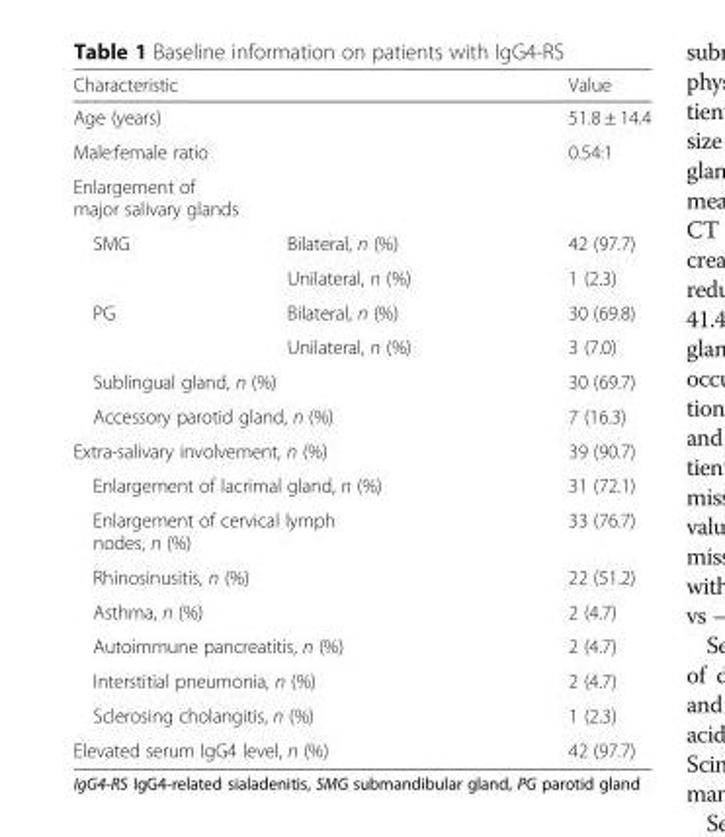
<table><thead><tr><td colspan="2">Characteristic</td><td>Value</td></tr></thead><tbody><tr><td colspan="2">Age (years)</td><td>51.8 ± 14.4</td></tr><tr><td colspan="2">Male:female ratio</td><td>0.54:1</td></tr><tr><td colspan="3">Enlargement of major salivary glands</td></tr><tr><td rowspan="2">SMG</td><td>Bilateral, n (%)</td><td>42 (97.7)</td></tr><tr><td>Unilateral, n (%)</td><td>1 (2.3)</td></tr><tr><td rowspan="2">PG</td><td>Bilateral, n (%)</td><td>30 (69.8)</td></tr><tr><td>Unilateral, n (%)</td><td>3 (7.0)</td></tr><tr><td colspan="2">Sublingual gland, n (%)</td><td>30 (69.7)</td></tr><tr><td colspan="2">Accessory parotid gland, n (%)</td><td>7 (16.3)</td></tr><tr><td colspan="2">Extra-salivary involvement, n (%)</td><td>39 (90.7)</td></tr><tr><td colspan="2">Enlargement of lacrimal gland, n (%)</td><td>31 (72.1)</td></tr><tr><td colspan="2">Enlargement of cervical lymph nodes, n (%)</td><td>33 (76.7)</td></tr><tr><td colspan="2">Rhinosinusitis, n (%)</td><td>22 (51.2)</td></tr><tr><td colspan="2">Asthma, n (%)</td><td>2 (4.7)</td></tr><tr><td colspan="2">Autoimmune pancreatitis, n (%)</td><td>2 (4.7)</td></tr><tr><td colspan="2">Interstitial pneumonia, n (%)</td><td>2 (4.7)</td></tr><tr><td colspan="2">Sclerosing cholangitis, n (%)</td><td>1 (2.3)</td></tr><tr><td colspan="2">Elevated serum IgG4 level, n (%)</td><td>42 (97.7)</td></tr></tbody></table>